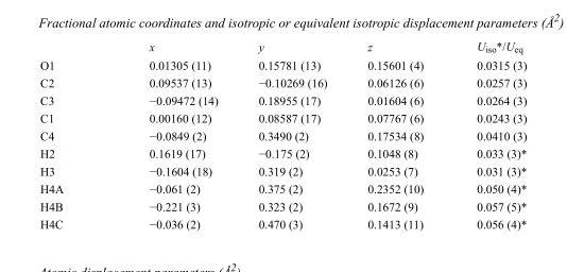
<table><thead><tr><td></td><td>x</td><td>y</td><td>z</td><td>U<sub>iso</sub>*/U<sub>eq</sub></td></tr></thead><tbody><tr><td>O1</td><td>0.01305 (11)</td><td>0.15781 (13)</td><td>0.15601 (4)</td><td>0.0315 (3)</td></tr><tr><td>C2</td><td>0.09537 (13)</td><td>−0.10269 (16)</td><td>0.06126 (6)</td><td>0.0257 (3)</td></tr><tr><td>C3</td><td>−0.09472 (14)</td><td>0.18955 (17)</td><td>0.01604 (6)</td><td>0.0264 (3)</td></tr><tr><td>C1</td><td>0.00160 (12)</td><td>0.08587 (17)</td><td>0.07767 (6)</td><td>0.0243 (3)</td></tr><tr><td>C4</td><td>−0.0849 (2)</td><td>0.3490 (2)</td><td>0.17534 (8)</td><td>0.0410 (3)</td></tr><tr><td>H2</td><td>0.1619 (17)</td><td>−0.175 (2)</td><td>0.1048 (8)</td><td>0.033 (3)*</td></tr><tr><td>H3</td><td>−0.1604 (18)</td><td>0.319 (2)</td><td>0.0253 (7)</td><td>0.031 (3)*</td></tr><tr><td>H4A</td><td>−0.061 (2)</td><td>0.375 (2)</td><td>0.2352 (10)</td><td>0.050 (4)*</td></tr><tr><td>H4B</td><td>−0.221 (3)</td><td>0.323 (2)</td><td>0.1672 (9)</td><td>0.057 (5)*</td></tr><tr><td>H4C</td><td>−0.036 (2)</td><td>0.470 (3)</td><td>0.1413 (11)</td><td>0.056 (4)*</td></tr></tbody></table>